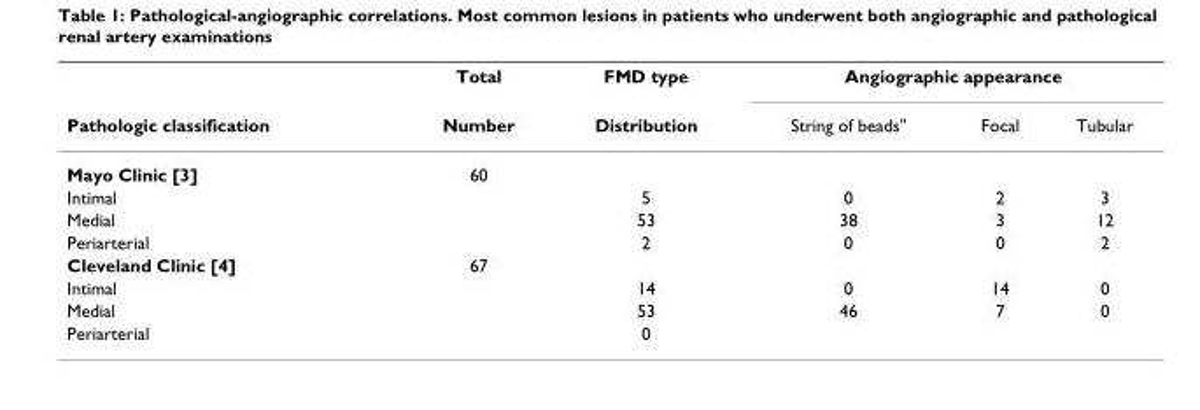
<table><thead><tr><td rowspan="2">Pathologic classification</td><td rowspan="2">Total Number</td><td rowspan="2">FMD type Distribution</td><td colspan="3">Angiographic appearance</td></tr><tr><td>String of beads&quot;</td><td>Focal</td><td>Tubular</td></tr></thead><tbody><tr><td>Mayo Clinic [3]</td><td>60</td><td></td><td></td><td></td><td></td></tr><tr><td>Intimal</td><td></td><td>5</td><td>0</td><td>2</td><td>3</td></tr><tr><td>Medial</td><td></td><td>53</td><td>38</td><td>3</td><td>12</td></tr><tr><td>Periarterial</td><td></td><td>2</td><td>0</td><td>0</td><td>2</td></tr><tr><td>Cleveland Clinic [4]</td><td>67</td><td></td><td></td><td></td><td></td></tr><tr><td>Intimal</td><td></td><td>14</td><td>0</td><td>14</td><td>0</td></tr><tr><td>Medial</td><td></td><td>53</td><td>46</td><td>7</td><td>0</td></tr><tr><td>Periarterial</td><td></td><td>0</td><td></td><td></td><td></td></tr></tbody></table>